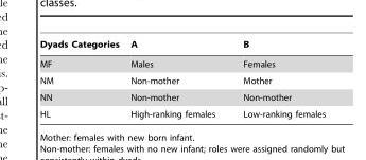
<table><thead><tr><td>Dyads Categories</td><td>A</td><td>B</td></tr></thead><tbody><tr><td>MF</td><td>Males</td><td>Females</td></tr><tr><td>NM</td><td>Non-mother</td><td>Mother</td></tr><tr><td>NN</td><td>Non-mother</td><td>Non-mother</td></tr><tr><td>HL</td><td>High-ranking females</td><td>Low-ranking females</td></tr></tbody></table>